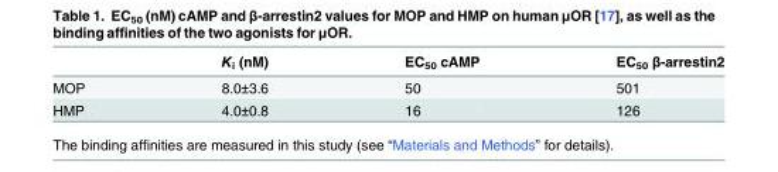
<table><thead><tr><td></td><td>K<sub>i</sub> (nM)</td><td>EC<sub>50</sub> cAMP</td><td>EC<sub>50</sub> β-arrestin2</td></tr></thead><tbody><tr><td>MOP</td><td>8.0±3.6</td><td>50</td><td>501</td></tr><tr><td>HMP</td><td>4.0±0.8</td><td>16</td><td>126</td></tr></tbody></table>